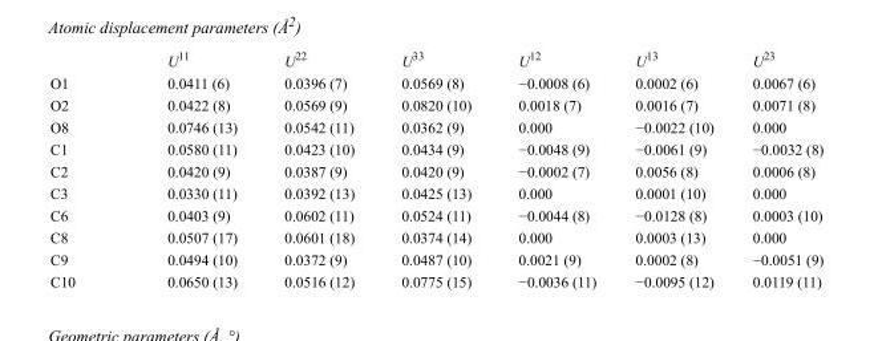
<table><thead><tr><td></td><td>U<sup>11</sup></td><td>U<sup>22</sup></td><td>U<sup>33</sup></td><td>U<sup>12</sup></td><td>U<sup>13</sup></td><td>U<sup>23</sup></td></tr></thead><tbody><tr><td>O1</td><td>0.0411 (6)</td><td>0.0396 (7)</td><td>0.0569 (8)</td><td>−0.0008 (6)</td><td>0.0002 (6)</td><td>0.0067 (6)</td></tr><tr><td>O2</td><td>0.0422 (8)</td><td>0.0569 (9)</td><td>0.0820 (10)</td><td>0.0018 (7)</td><td>0.0016 (7)</td><td>0.0071 (8)</td></tr><tr><td>O8</td><td>0.0746 (13)</td><td>0.0542 (11)</td><td>0.0362 (9)</td><td>0.000</td><td>−0.0022 (10)</td><td>0.000</td></tr><tr><td>C1</td><td>0.0580 (11)</td><td>0.0423 (10)</td><td>0.0434 (9)</td><td>−0.0048 (9)</td><td>−0.0061 (9)</td><td>−0.0032 (8)</td></tr><tr><td>C2</td><td>0.0420 (9)</td><td>0.0387 (9)</td><td>0.0420 (9)</td><td>−0.0002 (7)</td><td>0.0056 (8)</td><td>0.0006 (8)</td></tr><tr><td>C3</td><td>0.0330 (11)</td><td>0.0392 (13)</td><td>0.0425 (13)</td><td>0.000</td><td>0.0001 (10)</td><td>0.000</td></tr><tr><td>C6</td><td>0.0403 (9)</td><td>0.0602 (11)</td><td>0.0524 (11)</td><td>−0.0044 (8)</td><td>−0.0128 (8)</td><td>0.0003 (10)</td></tr><tr><td>C8</td><td>0.0507 (17)</td><td>0.0601 (18)</td><td>0.0374 (14)</td><td>0.000</td><td>0.0003 (13)</td><td>0.000</td></tr><tr><td>C9</td><td>0.0494 (10)</td><td>0.0372 (9)</td><td>0.0487 (10)</td><td>0.0021 (9)</td><td>0.0002 (8)</td><td>−0.0051 (9)</td></tr><tr><td>C10</td><td>0.0650 (13)</td><td>0.0516 (12)</td><td>0.0775 (15)</td><td>−0.0036 (11)</td><td>−0.0095 (12)</td><td>0.0119 (11)</td></tr></tbody></table>